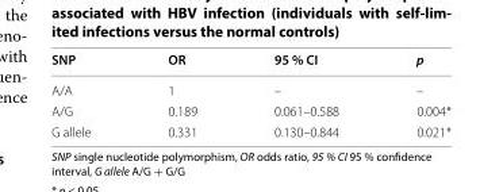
<table><thead><tr><td>SNP</td><td>OR</td><td>95 % CI</td><td>p</td></tr></thead><tbody><tr><td>A/A</td><td>1</td><td>–</td><td>–</td></tr><tr><td>A/G</td><td>0.189</td><td>0.061–0.588</td><td>0.004*</td></tr><tr><td>G allele</td><td>0.331</td><td>0.130–0.844</td><td>0.021*</td></tr></tbody></table>